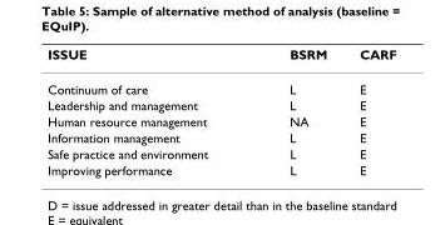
<table><thead><tr><td>ISSUE</td><td>BSRM</td><td>CARF</td></tr></thead><tbody><tr><td>Continuum of care</td><td>L</td><td>E</td></tr><tr><td>Leadership and management</td><td>L</td><td>E</td></tr><tr><td>Human resource management</td><td>NA</td><td>E</td></tr><tr><td>Information management</td><td>L</td><td>E</td></tr><tr><td>Safe practice and environment</td><td>L</td><td>E</td></tr><tr><td>Improving performance</td><td>L</td><td>E</td></tr></tbody></table>